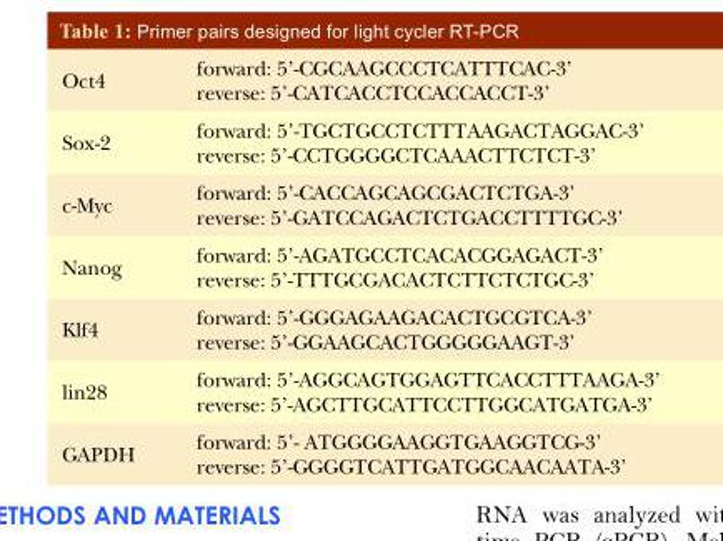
<table><tbody><tr><td>Oct4</td><td>forward: 5’-CGCAAGCCCTCATTTCAC-3’ reverse: 5’-CATCACCTCCACCACCT-3’</td></tr><tr><td>Sox-2</td><td>forward: 5’-TGCTGCCTCTTTAAGACTAGGAC-3’ reverse: 5’-CCTGGGGCTCAAACTTCTCT-3’</td></tr><tr><td>c-Myc</td><td>forward: 5’-CACCAGCAGCGACTCTGA-3’ reverse: 5’-GATCCAGACTCTGACCTTTTGC-3’</td></tr><tr><td>Nanog</td><td>forward: 5’-AGATGCCTCACACGGAGACT-3’ reverse: 5’-TTTGCGACACTCTTCTCTGC-3’</td></tr><tr><td>Klf4</td><td>forward: 5’-GGGAGAAGACACTGCGTCA-3’ reverse: 5’-GGAAGCACTGGGGGAAGT-3’</td></tr><tr><td>lin28</td><td>forward: 5’-AGGCAGTGGAGTTCACCTTTAAGA-3’ reverse: 5’-AGCTTGCATTCCTTGGCATGATGA-3’</td></tr><tr><td>GAPDH</td><td>forward: 5’- ATGGGGAAGGTGAAGGTCG-3’ reverse: 5’-GGGGTCATTGATGGCAACAATA-3’</td></tr></tbody></table>